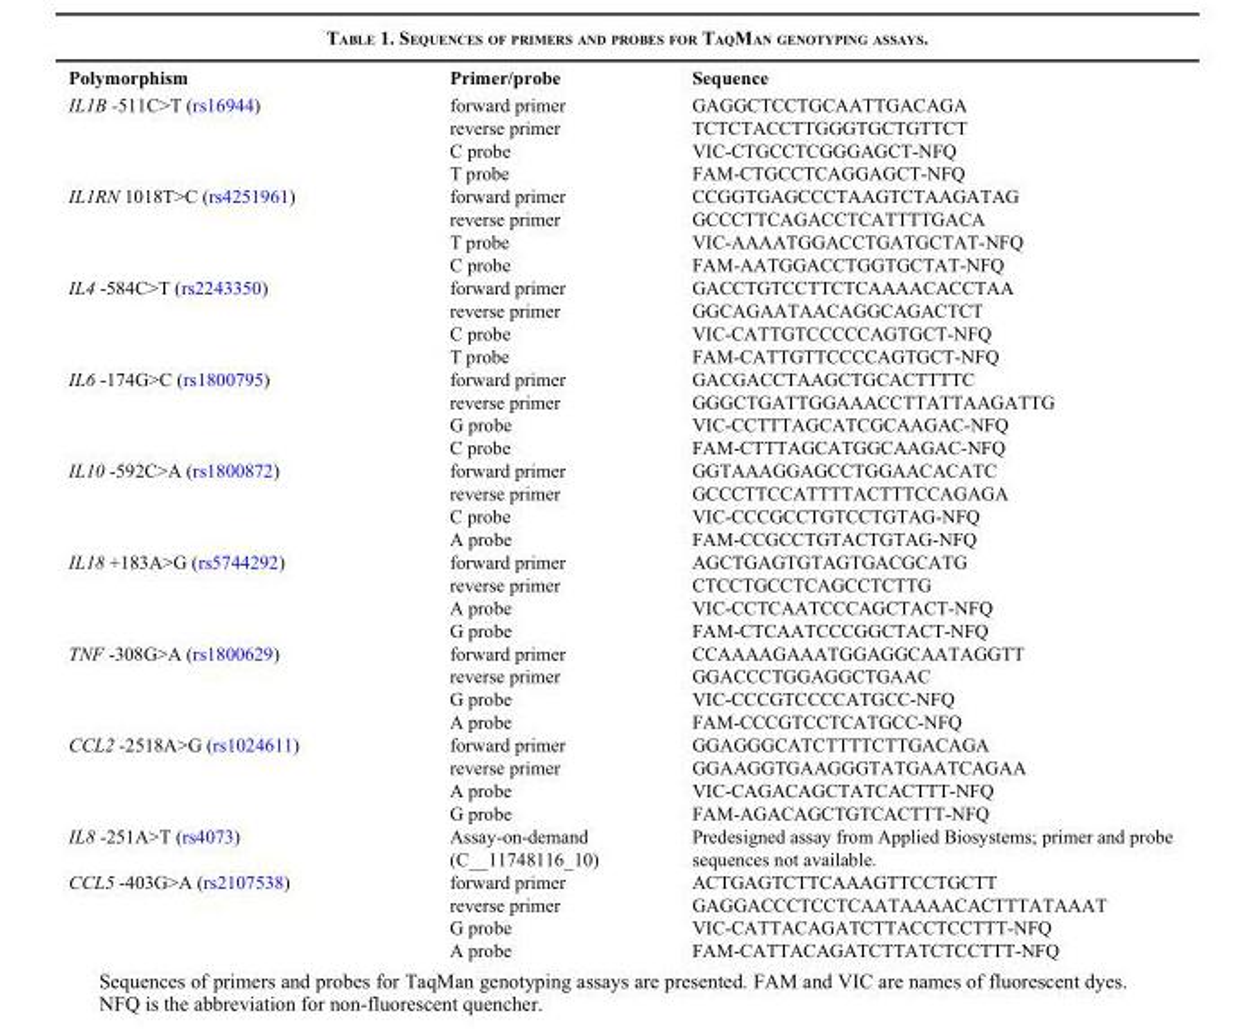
<table><thead><tr><td>Polymorphism</td><td>Primer/probe</td><td>Sequence</td></tr></thead><tbody><tr><td rowspan="4">IL1B -511C&gt;T (rs16944)</td><td>forward primer</td><td>GAGGCTCCTGCAATTGACAGA</td></tr><tr><td>reverse primer</td><td>TCTCTACCTTGGGTGCTGTTCT</td></tr><tr><td>C probe</td><td>VIC-CTGCCTCGGGAGCT-NFQ</td></tr><tr><td>T probe</td><td>FAM-CTGCCTCAGGAGCT-NFQ</td></tr><tr><td rowspan="4">IL1RN 1018T&gt;C (rs4251961)</td><td>forward primer</td><td>CCGGTGAGCCCTAAGTCTAAGATAG</td></tr><tr><td>reverse primer</td><td>GCCCTTCAGACCTCATTTTGACA</td></tr><tr><td>T probe</td><td>VIC-AAAATGGACCTGATGCTAT-NFQ</td></tr><tr><td>C probe</td><td>FAM-AATGGACCTGGTGCTAT-NFQ</td></tr><tr><td rowspan="4">IL4 -584C&gt;T (rs2243350)</td><td>forward primer</td><td>GACCTGTCCTTCTCAAAACACCTAA</td></tr><tr><td>reverse primer</td><td>GGCAGAATAACAGGCAGACTCT</td></tr><tr><td>C probe</td><td>VIC-CATTGTCCCCCAGTGCT-NFQ</td></tr><tr><td>T probe</td><td>FAM-CATTGTTCCCCAGTGCT-NFQ</td></tr><tr><td rowspan="4">IL6 -174G&gt;C (rs1800795)</td><td>forward primer</td><td>GACGACCTAAGCTGCACTTTTC</td></tr><tr><td>reverse primer</td><td>GGGCTGATTGGAAACCTTATTAAGATTG</td></tr><tr><td>G probe</td><td>VIC-CCTTTAGCATCGCAAGAC-NFQ</td></tr><tr><td>C probe</td><td>FAM-CTTTAGCATGGCAAGAC-NFQ</td></tr><tr><td rowspan="4">IL10 -592C&gt;A (rs1800872)</td><td>forward primer</td><td>GGTAAAGGAGCCTGGAACACATC</td></tr><tr><td>reverse primer</td><td>GCCCTTCCATTTTACTTTCCAGAGA</td></tr><tr><td>C probe</td><td>VIC-CCCGCCTGTCCTGTAG-NFQ</td></tr><tr><td>A probe</td><td>FAM-CCGCCTGTACTGTAG-NFQ</td></tr><tr><td rowspan="4">IL18 +183A&gt;G (rs5744292)</td><td>forward primer</td><td>AGCTGAGTGTAGTGACGCATG</td></tr><tr><td>reverse primer</td><td>CTCCTGCCTCAGCCTCTTG</td></tr><tr><td>A probe</td><td>VIC-CCTCAATCCCAGCTACT-NFQ</td></tr><tr><td>G probe</td><td>FAM-CTCAATCCCGGCTACT-NFQ</td></tr><tr><td rowspan="4">TNF -308G&gt;A (rs1800629)</td><td>forward primer</td><td>CCAAAAGAAATGGAGGCAATAGGTT</td></tr><tr><td>reverse primer</td><td>GGACCCTGGAGGCTGAAC</td></tr><tr><td>G probe</td><td>VIC-CCCGTCCCCATGCC-NFQ</td></tr><tr><td>A probe</td><td>FAM-CCCGTCCTCATGCC-NFQ</td></tr><tr><td rowspan="4">CCL2 -2518A&gt;G (rs1024611)</td><td>forward primer</td><td>GGAGGGCATCTTTTCTTGACAGA</td></tr><tr><td>reverse primer</td><td>GGAAGGTGAAGGGTATGAATCAGAA</td></tr><tr><td>A probe</td><td>VIC-CAGACAGCTATCACTTT-NFQ</td></tr><tr><td>G probe</td><td>FAM-AGACAGCTGTCACTTT-NFQ</td></tr><tr><td>IL8 -251A&gt;T (rs4073)</td><td>Assay-on-demand (C__11748116_10)</td><td>Predesigned assay from Applied Biosystems; primer and probe sequences not available.</td></tr><tr><td rowspan="4">CCL5 -403G&gt;A (rs2107538)</td><td>forward primer</td><td>ACTGAGTCTTCAAAGTTCCTGCTT</td></tr><tr><td>reverse primer</td><td>GAGGACCCTCCTCAATAAAACACTTTATAAAT</td></tr><tr><td>G probe</td><td>VIC-CATTACAGATCTTACCTCCTTT-NFQ</td></tr><tr><td>A probe</td><td>FAM-CATTACAGATCTTATCTCCTTT-NFQ</td></tr></tbody></table>